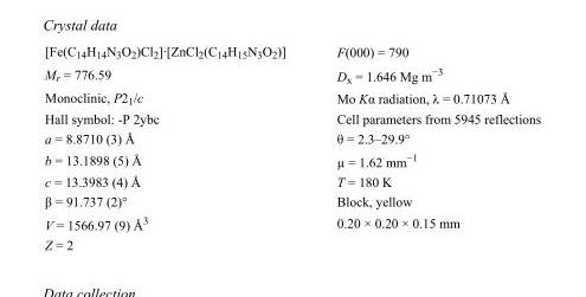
<table><tbody><tr><td>[Fe(C<sub>14</sub>H<sub>14</sub>N<sub>3</sub>O<sub>2</sub>)Cl<sub>2</sub>]·[ZnCl<sub>2</sub>(C<sub>14</sub>H<sub>15</sub>N<sub>3</sub>O<sub>2</sub>)]</td><td>F(000) = 790</td></tr><tr><td>M<sub>r</sub> = 776.59</td><td>D<sub>x</sub> = 1.646 Mg m<sup>−3</sup></td></tr><tr><td>Monoclinic, P2<sub>1</sub>/c</td><td>Mo Kα radiation, λ = 0.71073 Å</td></tr><tr><td>Hall symbol: -P 2ybc</td><td>Cell parameters from 5945 reflections</td></tr><tr><td>a = 8.8710 (3) Å</td><td>θ = 2.3–29.9°</td></tr><tr><td>b = 13.1898 (5) Å</td><td>µ = 1.62 mm<sup>−1</sup></td></tr><tr><td>c = 13.3983 (4) Å</td><td>T = 180 K</td></tr><tr><td>β = 91.737 (2)°</td><td>Block, yellow</td></tr><tr><td>V = 1566.97 (9) Å<sup>3</sup></td><td>0.20 × 0.20 × 0.15 mm</td></tr><tr><td>Z = 2</td><td></td></tr></tbody></table>